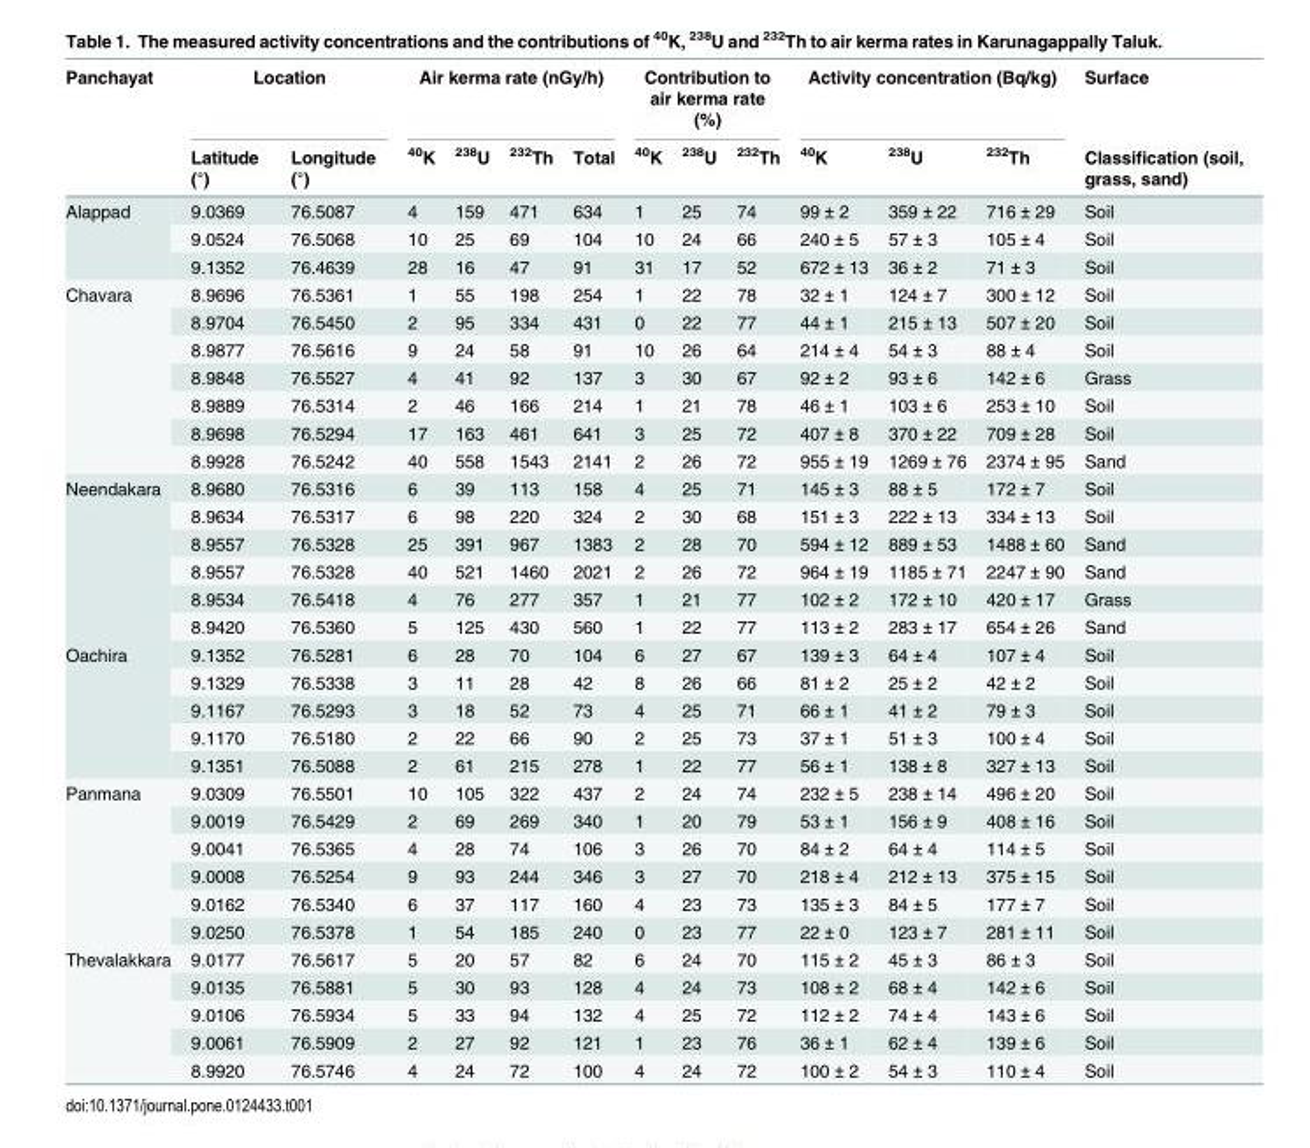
<table><thead><tr><td rowspan="2">Panchayat</td><td colspan="2">Location</td><td colspan="4">Air kerma rate (nGy/h)</td><td colspan="3">Contribution to air kerma rate (%)</td><td colspan="3">Activity concentration (Bq/kg)</td><td rowspan="2">Surface Classification (soil, grass, sand)</td></tr><tr><td>Latitude (°)</td><td>Longitude (°)</td><td><sup>40</sup>K</td><td><sup>238</sup>U</td><td><sup>232</sup>Th</td><td>Total</td><td><sup>40</sup>K</td><td><sup>238</sup>U</td><td><sup>232</sup>Th</td><td><sup>40</sup>K</td><td><sup>238</sup>U</td><td><sup>232</sup>Th</td></tr></thead><tbody><tr><td rowspan="3">Alappad</td><td>9.0369</td><td>76.5087</td><td>4</td><td>159</td><td>471</td><td>634</td><td>1</td><td>25</td><td>74</td><td>99 ± 2</td><td>359 ± 22</td><td>716 ± 29</td><td>Soil</td></tr><tr><td>9.0524</td><td>76.5068</td><td>10</td><td>25</td><td>69</td><td>104</td><td>10</td><td>24</td><td>66</td><td>240 ± 5</td><td>57 ± 3</td><td>105 ± 4</td><td>Soil</td></tr><tr><td>9.1352</td><td>76.4639</td><td>28</td><td>16</td><td>47</td><td>91</td><td>31</td><td>17</td><td>52</td><td>672 ± 13</td><td>36 ± 2</td><td>71 ± 3</td><td>Soil</td></tr><tr><td rowspan="7">Chavara</td><td>8.9696</td><td>76.5361</td><td>1</td><td>55</td><td>198</td><td>254</td><td>1</td><td>22</td><td>78</td><td>32 ± 1</td><td>124 ± 7</td><td>300 ± 12</td><td>Soil</td></tr><tr><td>8.9704</td><td>76.5450</td><td>2</td><td>95</td><td>334</td><td>431</td><td>0</td><td>22</td><td>77</td><td>44 ± 1</td><td>215 ± 13</td><td>507 ± 20</td><td>Soil</td></tr><tr><td>8.9877</td><td>76.5616</td><td>9</td><td>24</td><td>58</td><td>91</td><td>10</td><td>26</td><td>64</td><td>214 ± 4</td><td>54 ± 3</td><td>88 ± 4</td><td>Soil</td></tr><tr><td>8.9848</td><td>76.5527</td><td>4</td><td>41</td><td>92</td><td>137</td><td>3</td><td>30</td><td>67</td><td>92 ± 2</td><td>93 ± 6</td><td>142 ± 6</td><td>Grass</td></tr><tr><td>8.9889</td><td>76.5314</td><td>2</td><td>46</td><td>166</td><td>214</td><td>1</td><td>21</td><td>78</td><td>46 ± 1</td><td>103 ± 6</td><td>253 ± 10</td><td>Soil</td></tr><tr><td>8.9698</td><td>76.5294</td><td>17</td><td>163</td><td>461</td><td>641</td><td>3</td><td>25</td><td>72</td><td>407 ± 8</td><td>370 ± 22</td><td>709 ± 28</td><td>Soil</td></tr><tr><td>8.9928</td><td>76.5242</td><td>40</td><td>558</td><td>1543</td><td>2141</td><td>2</td><td>26</td><td>72</td><td>955 ± 19</td><td>1269 ± 76</td><td>2374 ± 95</td><td>Sand</td></tr><tr><td rowspan="6">Neendakara</td><td>8.9680</td><td>76.5316</td><td>6</td><td>39</td><td>113</td><td>158</td><td>4</td><td>25</td><td>71</td><td>145 ± 3</td><td>88 ± 5</td><td>172 ± 7</td><td>Soil</td></tr><tr><td>8.9634</td><td>76.5317</td><td>6</td><td>98</td><td>220</td><td>324</td><td>2</td><td>30</td><td>68</td><td>151 ± 3</td><td>222 ± 13</td><td>334 ± 13</td><td>Soil</td></tr><tr><td>8.9557</td><td>76.5328</td><td>25</td><td>391</td><td>967</td><td>1383</td><td>2</td><td>28</td><td>70</td><td>594 ± 12</td><td>889 ± 53</td><td>1488 ± 60</td><td>Sand</td></tr><tr><td>8.9557</td><td>76.5328</td><td>40</td><td>521</td><td>1460</td><td>2021</td><td>2</td><td>26</td><td>72</td><td>964 ± 19</td><td>1185 ± 71</td><td>2247 ± 90</td><td>Sand</td></tr><tr><td>8.9534</td><td>76.5418</td><td>4</td><td>76</td><td>277</td><td>357</td><td>1</td><td>21</td><td>77</td><td>102 ± 2</td><td>172 ± 10</td><td>420 ± 17</td><td>Grass</td></tr><tr><td>8.9420</td><td>76.5360</td><td>5</td><td>125</td><td>430</td><td>560</td><td>1</td><td>22</td><td>77</td><td>113 ± 2</td><td>283 ± 17</td><td>654 ± 26</td><td>Sand</td></tr><tr><td rowspan="5">Oachira</td><td>9.1352</td><td>76.5281</td><td>6</td><td>28</td><td>70</td><td>104</td><td>6</td><td>27</td><td>67</td><td>139 ± 3</td><td>64 ± 4</td><td>107 ± 4</td><td>Soil</td></tr><tr><td>9.1329</td><td>76.5338</td><td>3</td><td>11</td><td>28</td><td>42</td><td>8</td><td>26</td><td>66</td><td>81 ± 2</td><td>25 ± 2</td><td>42 ± 2</td><td>Soil</td></tr><tr><td>9.1167</td><td>76.5293</td><td>3</td><td>18</td><td>52</td><td>73</td><td>4</td><td>25</td><td>71</td><td>66 ± 1</td><td>41 ± 2</td><td>79 ± 3</td><td>Soil</td></tr><tr><td>9.1170</td><td>76.5180</td><td>2</td><td>22</td><td>66</td><td>90</td><td>2</td><td>25</td><td>73</td><td>37 ± 1</td><td>51 ± 3</td><td>100 ± 4</td><td>Soil</td></tr><tr><td>9.1351</td><td>76.5088</td><td>2</td><td>61</td><td>215</td><td>278</td><td>1</td><td>22</td><td>77</td><td>56 ± 1</td><td>138 ± 8</td><td>327 ± 13</td><td>Soil</td></tr><tr><td rowspan="6">Panmana</td><td>9.0309</td><td>76.5501</td><td>10</td><td>105</td><td>322</td><td>437</td><td>2</td><td>24</td><td>74</td><td>232 ± 5</td><td>238 ± 14</td><td>496 ± 20</td><td>Soil</td></tr><tr><td>9.0019</td><td>76.5429</td><td>2</td><td>69</td><td>269</td><td>340</td><td>1</td><td>20</td><td>79</td><td>53 ± 1</td><td>156 ± 9</td><td>408 ± 16</td><td>Soil</td></tr><tr><td>9.0041</td><td>76.5365</td><td>4</td><td>28</td><td>74</td><td>106</td><td>3</td><td>26</td><td>70</td><td>84 ± 2</td><td>64 ± 4</td><td>114 ± 5</td><td>Soil</td></tr><tr><td>9.0008</td><td>76.5254</td><td>9</td><td>93</td><td>244</td><td>346</td><td>3</td><td>27</td><td>70</td><td>218 ± 4</td><td>212 ± 13</td><td>375 ± 15</td><td>Soil</td></tr><tr><td>9.0162</td><td>76.5340</td><td>6</td><td>37</td><td>117</td><td>160</td><td>4</td><td>23</td><td>73</td><td>135 ± 3</td><td>84 ± 5</td><td>177 ± 7</td><td>Soil</td></tr><tr><td>9.0250</td><td>76.5378</td><td>1</td><td>54</td><td>185</td><td>240</td><td>0</td><td>23</td><td>77</td><td>22 ± 0</td><td>123 ± 7</td><td>281 ± 11</td><td>Soil</td></tr><tr><td rowspan="5">Thevalakkara</td><td>9.0177</td><td>76.5617</td><td>5</td><td>20</td><td>57</td><td>82</td><td>6</td><td>24</td><td>70</td><td>115 ± 2</td><td>45 ± 3</td><td>86 ± 3</td><td>Soil</td></tr><tr><td>9.0135</td><td>76.5881</td><td>5</td><td>30</td><td>93</td><td>128</td><td>4</td><td>24</td><td>73</td><td>108 ± 2</td><td>68 ± 4</td><td>142 ± 6</td><td>Soil</td></tr><tr><td>9.0106</td><td>76.5934</td><td>5</td><td>33</td><td>94</td><td>132</td><td>4</td><td>25</td><td>72</td><td>112 ± 2</td><td>74 ± 4</td><td>143 ± 6</td><td>Soil</td></tr><tr><td>9.0061</td><td>76.5909</td><td>2</td><td>27</td><td>92</td><td>121</td><td>1</td><td>23</td><td>76</td><td>36 ± 1</td><td>62 ± 4</td><td>139 ± 6</td><td>Soil</td></tr><tr><td>8.9920</td><td>76.5746</td><td>4</td><td>24</td><td>72</td><td>100</td><td>4</td><td>24</td><td>72</td><td>100 ± 2</td><td>54 ± 3</td><td>110 ± 4</td><td>Soil</td></tr></tbody></table>